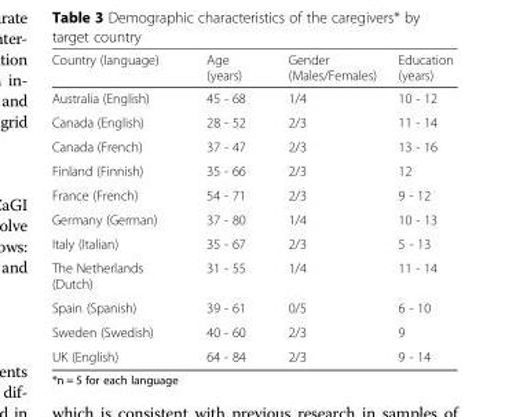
<table><thead><tr><td>Country (language)</td><td>Age (years)</td><td>Gender (Males/Females)</td><td>Education (years)</td></tr></thead><tbody><tr><td>Australia (English)</td><td>45 - 68</td><td>1/4</td><td>10 - 12</td></tr><tr><td>Canada (English)</td><td>28 - 52</td><td>2/3</td><td>11 - 14</td></tr><tr><td>Canada (French)</td><td>37 - 47</td><td>2/3</td><td>13 - 16</td></tr><tr><td>Finland (Finnish)</td><td>35 - 66</td><td>2/3</td><td>12</td></tr><tr><td>France (French)</td><td>54 - 71</td><td>2/3</td><td>9 - 12</td></tr><tr><td>Germany (German)</td><td>37 - 80</td><td>1/4</td><td>10 - 13</td></tr><tr><td>Italy (Italian)</td><td>35 - 67</td><td>2/3</td><td>5 - 13</td></tr><tr><td>The Netherlands (Dutch)</td><td>31 - 55</td><td>1/4</td><td>11 - 14</td></tr><tr><td>Spain (Spanish)</td><td>39 - 61</td><td>0/5</td><td>6 - 10</td></tr><tr><td>Sweden (Swedish)</td><td>40 - 60</td><td>2/3</td><td>9</td></tr><tr><td>UK (English)</td><td>64 - 84</td><td>2/3</td><td>9 - 14</td></tr></tbody></table>